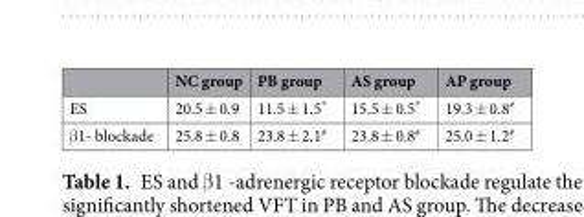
<table><thead><tr><td></td><td>NC group</td><td>PB group</td><td>AS group</td><td>AP group</td></tr></thead><tbody><tr><td>ES</td><td>20.5 ± 0.9</td><td>11.5 ± 1.5*</td><td>15.5 ± 0.5*</td><td>19.3 ± 0.8<sup>#</sup></td></tr><tr><td>β1- blockade</td><td>25.8 ± 0.8</td><td>23.8 ± 2.1<sup>#</sup></td><td>23.8 ± 0.8<sup>#</sup></td><td>25.0 ± 1.2<sup>#</sup></td></tr></tbody></table>